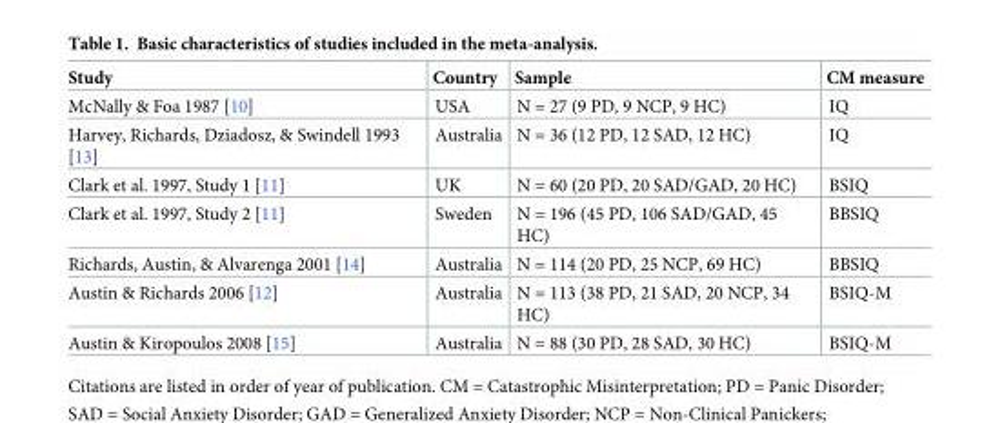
<table><thead><tr><td>Study</td><td>Country</td><td>Sample</td><td>CM measure</td></tr></thead><tbody><tr><td>McNally &amp; Foa 1987 [10]</td><td>USA</td><td>N = 27 (9 PD, 9 NCP, 9 HC)</td><td>IQ</td></tr><tr><td>Harvey, Richards, Dziadosz, &amp; Swindell 1993 [13]</td><td>Australia</td><td>N = 36 (12 PD, 12 SAD, 12 HC)</td><td>IQ</td></tr><tr><td>Clark et al. 1997, Study 1 [11]</td><td>UK</td><td>N = 60 (20 PD, 20 SAD/GAD, 20 HC)</td><td>BSIQ</td></tr><tr><td>Clark et al. 1997, Study 2 [11]</td><td>Sweden</td><td>N = 196 (45 PD, 106 SAD/GAD, 45 HC)</td><td>BBSIQ</td></tr><tr><td>Richards, Austin, &amp; Alvarenga 2001 [14]</td><td>Australia</td><td>N = 114 (20 PD, 25 NCP, 69 HC)</td><td>BBSIQ</td></tr><tr><td>Austin &amp; Richards 2006 [12]</td><td>Australia</td><td>N = 113 (38 PD, 21 SAD, 20 NCP, 34 HC)</td><td>BSIQ-M</td></tr><tr><td>Austin &amp; Kiropoulos 2008 [15]</td><td>Australia</td><td>N = 88 (30 PD, 28 SAD, 30 HC)</td><td>BSIQ-M</td></tr></tbody></table>